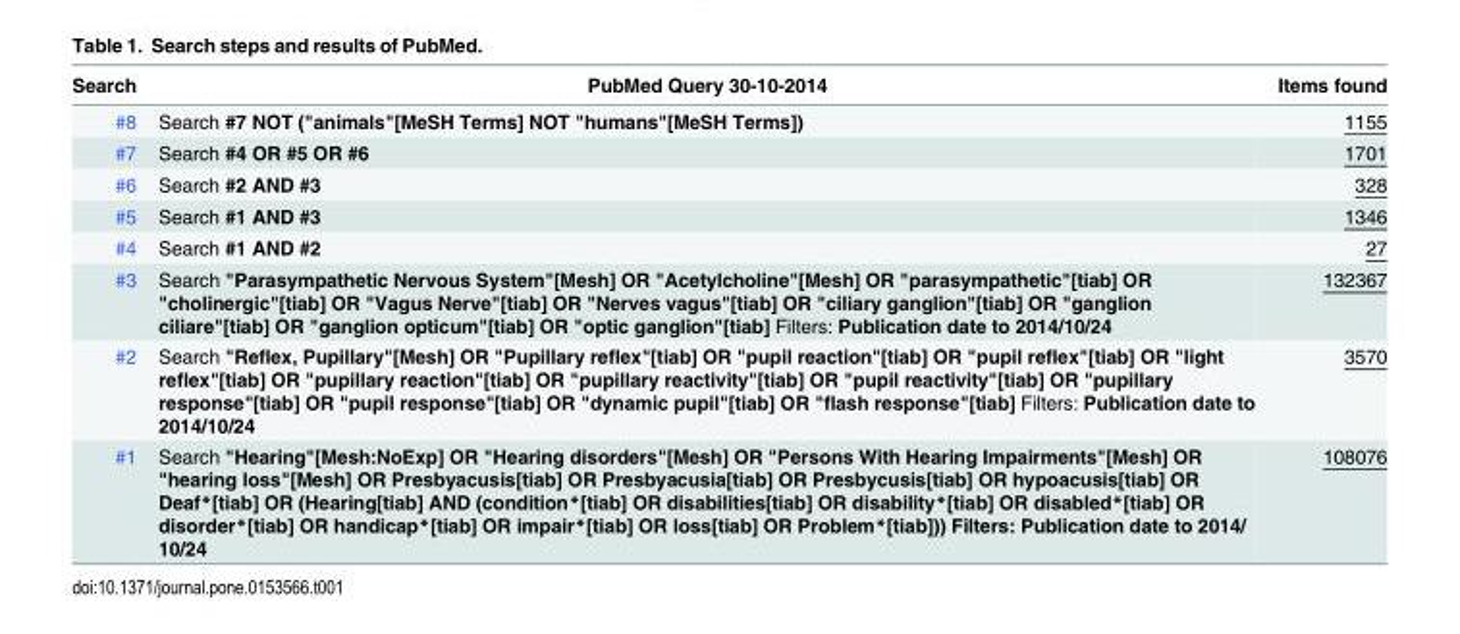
<table><thead><tr><td>Search</td><td>PubMed Query 30-10-2014</td><td>Items found</td></tr></thead><tbody><tr><td>#8</td><td>Search #7 NOT (&quot;animals&quot;[MeSH Terms] NOT &quot;humans&quot;[MeSH Terms])</td><td>1155</td></tr><tr><td>#7</td><td>Search #4 OR #5 OR #6</td><td>1701</td></tr><tr><td>#6</td><td>Search #2 AND #3</td><td>328</td></tr><tr><td>#5</td><td>Search #1 AND #3</td><td>1346</td></tr><tr><td>#4</td><td>Search #1 AND #2</td><td>27</td></tr><tr><td>#3</td><td>Search &quot;Parasympathetic Nervous System&quot;[Mesh] OR &quot;Acetylcholine&quot;[Mesh] OR &quot;parasympathetic&quot;[tiab] OR &quot;cholinergic&quot;[tiab] OR &quot;Vagus Nerve&quot;[tiab] OR &quot;Nerves vagus&quot;[tiab] OR &quot;ciliary ganglion&quot;[tiab] OR &quot;ganglion ciliare&quot;[tiab] OR &quot;ganglion opticum&quot;[tiab] OR &quot;optic ganglion&quot;[tiab] Filters: Publication date to 2014/10/24</td><td>132367</td></tr><tr><td>#2</td><td>Search &quot;Reflex, Pupillary&quot;[Mesh] OR &quot;Pupillary reflex&quot;[tiab] OR &quot;pupil reaction&quot;[tiab] OR &quot;pupil reflex&quot;[tiab] OR &quot;light reflex&quot;[tiab] OR &quot;pupillary reaction&quot;[tiab] OR &quot;pupillary reactivity&quot;[tiab] OR &quot;pupil reactivity&quot;[tiab] OR &quot;pupillary response&quot;[tiab] OR &quot;pupil response&quot;[tiab] OR &quot;dynamic pupil&quot;[tiab] OR &quot;flash response&quot;[tiab] Filters: Publication date to 2014/10/24</td><td>3570</td></tr><tr><td>#1</td><td>Search &quot;Hearing&quot;[Mesh:NoExp] OR &quot;Hearing disorders&quot;[Mesh] OR &quot;Persons With Hearing Impairments&quot;[Mesh] OR &quot;hearing loss&quot;[Mesh] OR Presbyacusis[tiab] OR Presbyacusia[tiab] OR Presbycusis[tiab] OR hypoacusis[tiab] OR Deaf*[tiab] OR (Hearing[tiab] AND (condition*[tiab] OR disabilities[tiab] OR disability*[tiab] OR disabled*[tiab] OR disorder*[tiab] OR handicap*[tiab] OR impair*[tiab] OR loss[tiab] OR Problem*[tiab])) Filters: Publication date to 2014/ 10/24</td><td>108076</td></tr></tbody></table>